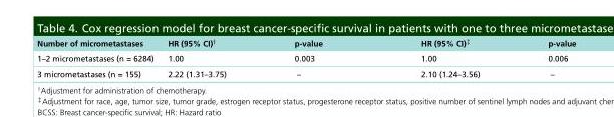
<table><thead><tr><td>Number of micrometastases</td><td>HR (95% CI)<sup>†</sup></td><td>p-value</td><td>HR (95% CI)<sup>‡</sup></td><td>p-value</td></tr></thead><tbody><tr><td>1–2 micrometastases (n = 6284)</td><td>1.00</td><td>0.003</td><td>1.00</td><td>0.006</td></tr><tr><td>3 micrometastases (n = 155)</td><td>2.22 (1.31–3.75)</td><td>–</td><td>2.10 (1.24–3.56)</td><td>–</td></tr></tbody></table>